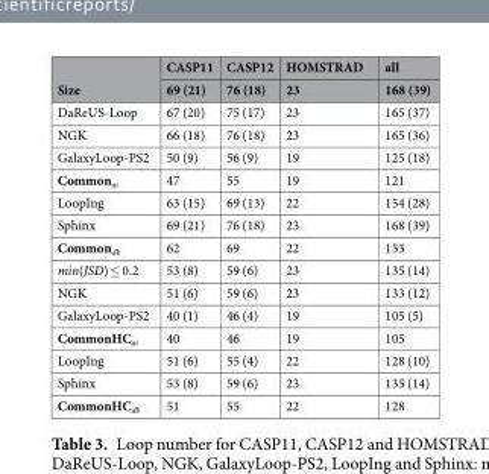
<table><thead><tr><td rowspan="2">Size</td><td rowspan="2">CASP11 69 (21)</td><td rowspan="2">CASP12 76 (18)</td><td rowspan="2">HOMSTRAD 23</td><td rowspan="2">all 168 (39)</td></tr><tr></tr></thead><tbody><tr><td>DaReUS-Loop</td><td>67 (20)</td><td>75 (17)</td><td>23</td><td>165 (37)</td></tr><tr><td>NGK</td><td>66 (18)</td><td>76 (18)</td><td>23</td><td>165 (36)</td></tr><tr><td>GalaxyLoop-PS2</td><td>50 (9)</td><td>56 (9)</td><td>19</td><td>125 (18)</td></tr><tr><td>Common<sub>ai</sub></td><td>47</td><td>55</td><td>19</td><td>121</td></tr><tr><td>LoopIng</td><td>63 (15)</td><td>69 (13)</td><td>22</td><td>154 (28)</td></tr><tr><td>Sphinx</td><td>69 (21)</td><td>76 (18)</td><td>23</td><td>168 (39)</td></tr><tr><td>Common<sub>db</sub></td><td>62</td><td>69</td><td>22</td><td>153</td></tr><tr><td>min(JSD) ≤ 0.2</td><td>53 (8)</td><td>59 (6)</td><td>23</td><td>135 (14)</td></tr><tr><td>NGK</td><td>51 (6)</td><td>59 (6)</td><td>23</td><td>133 (12)</td></tr><tr><td>GalaxyLoop-PS2</td><td>40 (1)</td><td>46 (4)</td><td>19</td><td>105 (5)</td></tr><tr><td>CommonHC<sub>ai</sub></td><td>40</td><td>46</td><td>19</td><td>105</td></tr><tr><td>LoopIng</td><td>51 (6)</td><td>55 (4)</td><td>22</td><td>128 (10)</td></tr><tr><td>Sphinx</td><td>53 (8)</td><td>59 (6)</td><td>23</td><td>135 (14)</td></tr><tr><td>CommonHC<sub>db</sub></td><td>51</td><td>55</td><td>22</td><td>128</td></tr></tbody></table>